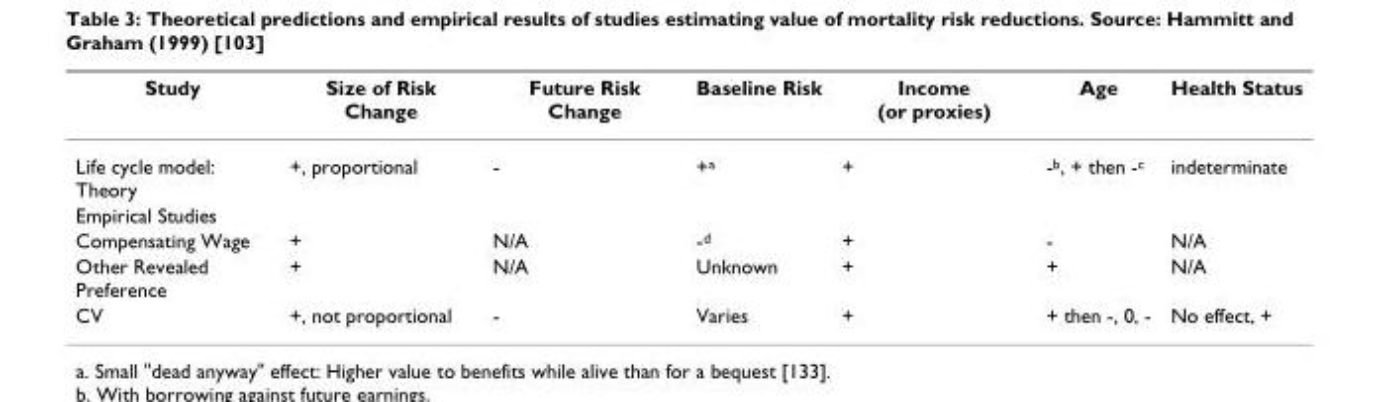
<table><thead><tr><td>Study</td><td>Size of Risk Change</td><td>Future Risk Change</td><td>Baseline Risk</td><td>Income (or proxies)</td><td>Age</td><td>Health Status</td></tr></thead><tbody><tr><td>Life cycle model: Theory</td><td>+, proportional</td><td>-</td><td>+<sup>a</sup></td><td>+</td><td>-<sup>b</sup>, + then -<sup>c</sup></td><td>indeterminate</td></tr><tr><td colspan="7">Empirical Studies</td></tr><tr><td>Compensating Wage</td><td>+</td><td>N/A</td><td>-<sup>d</sup></td><td>+</td><td>-</td><td>N/A</td></tr><tr><td>Other Revealed Preference</td><td>+</td><td>N/A</td><td>Unknown</td><td>+</td><td>+</td><td>N/A</td></tr><tr><td>CV</td><td>+, not proportional</td><td>-</td><td>Varies</td><td>+</td><td>+ then -, 0, -</td><td>No effect, +</td></tr></tbody></table>